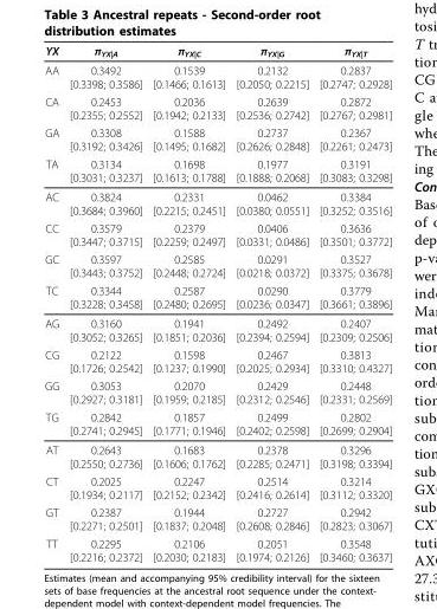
<table><thead><tr><td>YX</td><td>π<sub>YX|A</sub></td><td>π<sub>YX|C</sub></td><td>π<sub>YX|G</sub></td><td>π<sub>YX|T</sub></td></tr></thead><tbody><tr><td>AA</td><td>0.3492 [0.3398; 0.3586]</td><td>0.1539 [0.1466; 0.1613]</td><td>0.2132 [0.2050; 0.2215]</td><td>0.2837 [0.2747; 0.2928]</td></tr><tr><td>CA</td><td>0.2453 [0.2355; 0.2552]</td><td>0.2036 [0.1942; 0.2133]</td><td>0.2639 [0.2536; 0.2742]</td><td>0.2872 [0.2767; 0.2981]</td></tr><tr><td>GA</td><td>0.3308 [0.3192; 0.3426]</td><td>0.1588 [0.1495; 0.1682]</td><td>0.2737 [0.2626; 0.2848]</td><td>0.2367 [0.2261; 0.2473]</td></tr><tr><td>TA</td><td>0.3134 [0.3031; 0.3237]</td><td>0.1698 [0.1613; 0.1788]</td><td>0.1977 [0.1888; 0.2068]</td><td>0.3191 [0.3083; 0.3298]</td></tr><tr><td>AC</td><td>0.3824 [0.3684; 0.3960]</td><td>0.2331 [0.2215; 0.2451]</td><td>0.0462 [0.0380; 0.0551]</td><td>0.3384 [0.3252; 0.3516]</td></tr><tr><td>CC</td><td>0.3579 [0.3447; 0.3715]</td><td>0.2379 [0.2259; 0.2497]</td><td>0.0406 [0.0331; 0.0486]</td><td>0.3636 [0.3501; 0.3772]</td></tr><tr><td>GC</td><td>0.3597 [0.3443; 0.3752]</td><td>0.2585 [0.2448; 0.2724]</td><td>0.0291 [0.0218; 0.0372]</td><td>0.3527 [0.3375; 0.3678]</td></tr><tr><td>TC</td><td>0.3344 [0.3228; 0.3458]</td><td>0.2587 [0.2480; 0.2695]</td><td>0.0290 [0.0236; 0.0347]</td><td>0.3779 [0.3661; 0.3896]</td></tr><tr><td>AG</td><td>0.3160 [0.3052; 0.3265]</td><td>0.1941 [0.1851; 0.2036]</td><td>0.2492 [0.2394; 0.2594]</td><td>0.2407 [0.2309; 0.2506]</td></tr><tr><td>CG</td><td>0.2122 [0.1726; 0.2542]</td><td>0.1598 [0.1237; 0.1990]</td><td>0.2467 [0.2025; 0.2934]</td><td>0.3813 [0.3310; 0.4327]</td></tr><tr><td>GG</td><td>0.3053 [0.2927; 0.3181]</td><td>0.2070 [0.1959; 0.2185]</td><td>0.2429 [0.2312; 0.2546]</td><td>0.2448 [0.2331; 0.2569]</td></tr><tr><td>TG</td><td>0.2842 [0.2741; 0.2945]</td><td>0.1857 [0.1771; 0.1946]</td><td>0.2499 [0.2402; 0.2598]</td><td>0.2802 [0.2699; 0.2904]</td></tr><tr><td>AT</td><td>0.2643 [0.2550; 0.2736]</td><td>0.1683 [0.1606; 0.1762]</td><td>0.2378 [0.2285; 0.2471]</td><td>0.3296 [0.3198; 0.3394]</td></tr><tr><td>CT</td><td>0.2025 [0.1934; 0.2117]</td><td>0.2247 [0.2152; 0.2342]</td><td>0.2514 [0.2416; 0.2614]</td><td>0.3214 [0.3112; 0.3320]</td></tr><tr><td>GT</td><td>0.2387 [0.2271; 0.2501]</td><td>0.1944 [0.1837; 0.2048]</td><td>0.2727 [0.2608; 0.2846]</td><td>0.2942 [0.2823; 0.3067]</td></tr><tr><td>TT</td><td>0.2295 [0.2216; 0.2372]</td><td>0.2106 [0.2030; 0.2183]</td><td>0.2051 [0.1974; 0.2126]</td><td>0.3548 [0.3460; 0.3637]</td></tr></tbody></table>